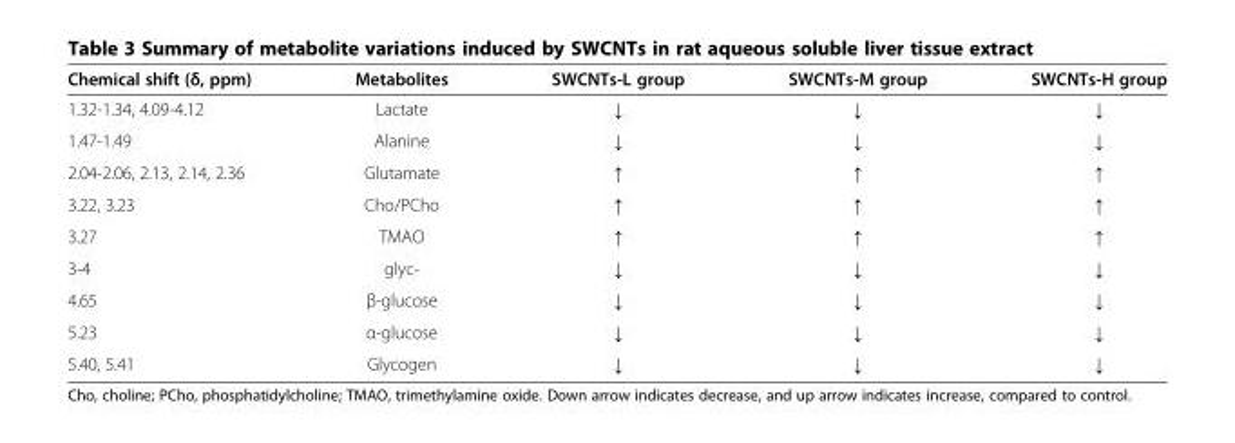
<table><thead><tr><td>Chemical shift (δ, ppm)</td><td>Metabolites</td><td>SWCNTs-L group</td><td>SWCNTs-M group</td><td>SWCNTs-H group</td></tr></thead><tbody><tr><td>1.32-1.34, 4.09-4.12</td><td>Lactate</td><td>↓</td><td>↓</td><td>↓</td></tr><tr><td>1.47-1.49</td><td>Alanine</td><td>↓</td><td>↓</td><td>↓</td></tr><tr><td>2.04-2.06, 2.13, 2.14, 2.36</td><td>Glutamate</td><td>↑</td><td>↑</td><td>↑</td></tr><tr><td>3.22, 3.23</td><td>Cho/PCho</td><td>↑</td><td>↑</td><td>↑</td></tr><tr><td>3.27</td><td>TMAO</td><td>↑</td><td>↑</td><td>↑</td></tr><tr><td>3-4</td><td>glyc-</td><td>↓</td><td>↓</td><td>↓</td></tr><tr><td>4.65</td><td>β-glucose</td><td>↓</td><td>↓</td><td>↓</td></tr><tr><td>5.23</td><td>α-glucose</td><td>↓</td><td>↓</td><td>↓</td></tr><tr><td>5.40, 5.41</td><td>Glycogen</td><td>↓</td><td>↓</td><td>↓</td></tr></tbody></table>